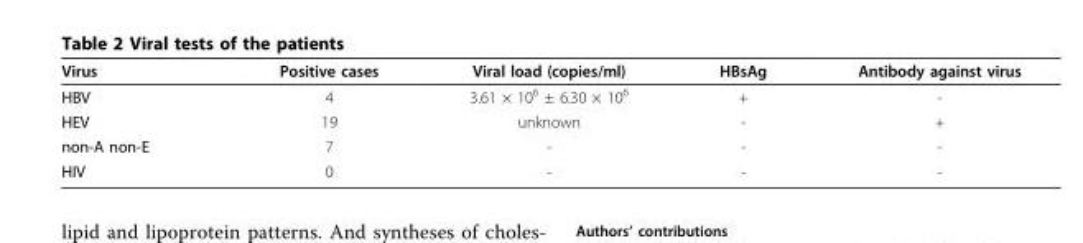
<table><thead><tr><td>Virus</td><td>Positive cases</td><td>Viral load (copies/ml)</td><td>HBsAg</td><td>Antibody against virus</td></tr></thead><tbody><tr><td>HBV</td><td>4</td><td>3.61 × 10<sup>6</sup> ± 6.30 × 10<sup>6</sup></td><td>+</td><td>-</td></tr><tr><td>HEV</td><td>19</td><td>unknown</td><td>-</td><td>+</td></tr><tr><td>non-A non-E</td><td>7</td><td>-</td><td>-</td><td>-</td></tr><tr><td>HIV</td><td>0</td><td>-</td><td>-</td><td>-</td></tr></tbody></table>